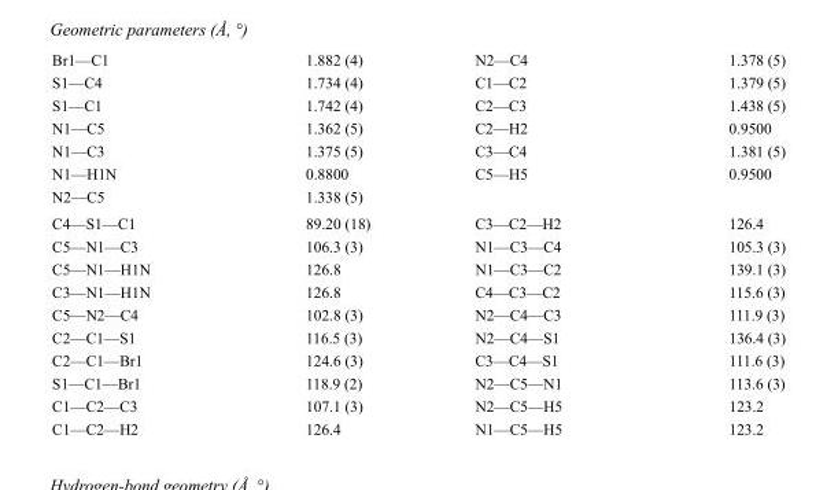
<table><tbody><tr><td>Br1—C1</td><td>1.882 (4)</td><td>N2—C4</td><td>1.378 (5)</td></tr><tr><td>S1—C4</td><td>1.734 (4)</td><td>C1—C2</td><td>1.379 (5)</td></tr><tr><td>S1—C1</td><td>1.742 (4)</td><td>C2—C3</td><td>1.438 (5)</td></tr><tr><td>N1—C5</td><td>1.362 (5)</td><td>C2—H2</td><td>0.9500</td></tr><tr><td>N1—C3</td><td>1.375 (5)</td><td>C3—C4</td><td>1.381 (5)</td></tr><tr><td>N1—H1N</td><td>0.8800</td><td>C5—H5</td><td>0.9500</td></tr><tr><td>N2—C5</td><td>1.338 (5)</td><td></td><td></td></tr><tr><td>C4—S1—C1</td><td>89.20 (18)</td><td>C3—C2—H2</td><td>126.4</td></tr><tr><td>C5—N1—C3</td><td>106.3 (3)</td><td>N1—C3—C4</td><td>105.3 (3)</td></tr><tr><td>C5—N1—H1N</td><td>126.8</td><td>N1—C3—C2</td><td>139.1 (3)</td></tr><tr><td>C3—N1—H1N</td><td>126.8</td><td>C4—C3—C2</td><td>115.6 (3)</td></tr><tr><td>C5—N2—C4</td><td>102.8 (3)</td><td>N2—C4—C3</td><td>111.9 (3)</td></tr><tr><td>C2—C1—S1</td><td>116.5 (3)</td><td>N2—C4—S1</td><td>136.4 (3)</td></tr><tr><td>C2—C1—Br1</td><td>124.6 (3)</td><td>C3—C4—S1</td><td>111.6 (3)</td></tr><tr><td>S1—C1—Br1</td><td>118.9 (2)</td><td>N2—C5—N1</td><td>113.6 (3)</td></tr><tr><td>C1—C2—C3</td><td>107.1 (3)</td><td>N2—C5—H5</td><td>123.2</td></tr><tr><td>C1—C2—H2</td><td>126.4</td><td>N1—C5—H5</td><td>123.2</td></tr></tbody></table>